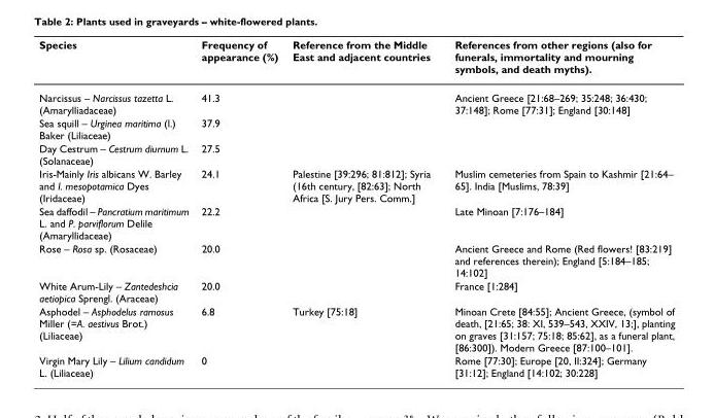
<table><thead><tr><td>Species</td><td>Frequency of appearance (%)</td><td>Reference from the Middle East and adjacent countries</td><td>References from other regions (also for funerals, immortality and mourning symbols, and death myths).</td></tr></thead><tbody><tr><td>Narcissus – Narcissus tazetta L. (Amarylliadaceae)</td><td>41.3</td><td></td><td>Ancient Greece [21:68–269; 35:248; 36:430; 37:148]; Rome [77:31]; England [30:148]</td></tr><tr><td>Sea squill – Urginea maritima (l.) Baker (Liliaceae)</td><td>37.9</td><td></td><td></td></tr><tr><td>Day Cestrum – Cestrum diurnum L. (Solanaceae)</td><td>27.5</td><td></td><td></td></tr><tr><td>Iris-Mainly Iris albicans W. Barley and I. mesopotamica Dyes (Iridaceae)</td><td>24.1</td><td>Palestine [39:296; 81:812]; Syria (16th century, [82:63]; North Africa [S. Jury Pers. Comm.]</td><td>Muslim cemeteries from Spain to Kashmir [21:64– 65]. India [Muslims, 78:39]</td></tr><tr><td>Sea daffodil – Pancratium maritimum L. and P. parviflorum Delile (Amaryllidaceae)</td><td>22.2</td><td></td><td>Late Minoan [7:176–184]</td></tr><tr><td>Rose – Rosa sp. (Rosaceae)</td><td>20.0</td><td></td><td>Ancient Greece and Rome (Red flowers! [83:219] and references therein); England [5:184–185; 14:102]</td></tr><tr><td>White Arum-Lily – Zantedeshcia aetiopica Sprengl. (Araceae)</td><td>20.0</td><td></td><td>France [1:284]</td></tr><tr><td>Asphodel – Asphodelus ramosus Miller (=A. aestivus Brot.) (Liliaceae)</td><td>6.8</td><td>Turkey [75:18]</td><td>Minoan Crete [84:55]; Ancient Greece, (symbol of death, [21:65; 38: XI, 539–543, XXIV, 13;], planting on graves [31:157; 75:18; 85:62], as a funeral plant, [86:300]). Modern Greece [87:100–101].</td></tr><tr><td>Virgin Mary Lily – Lilium candidum L. (Liliaceae)</td><td>0</td><td></td><td>Rome [77:30]; Europe [20, II:324]; Germany [31:12]; England [14:102; 30:228]</td></tr></tbody></table>